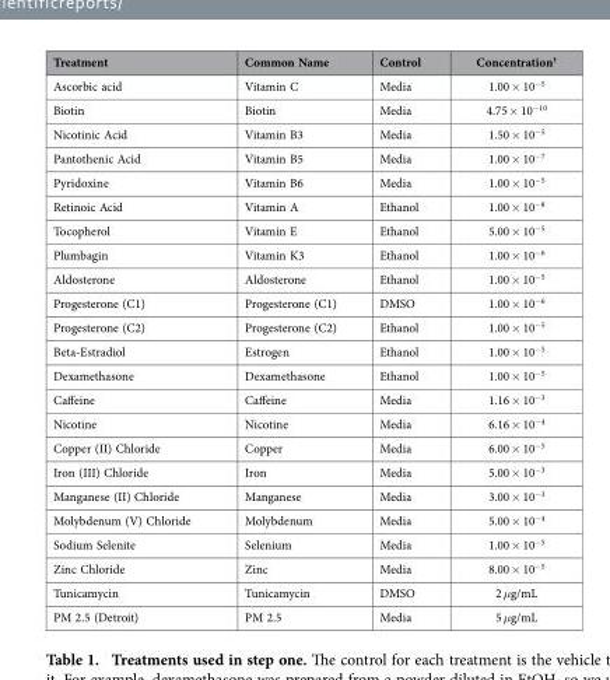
<table><thead><tr><td>Treatment</td><td>Common Name</td><td>Control</td><td>Concentration†</td></tr></thead><tbody><tr><td>Ascorbic acid</td><td>Vitamin C</td><td>Media</td><td>1.00 × 10<sup>−5</sup></td></tr><tr><td>Biotin</td><td>Biotin</td><td>Media</td><td>4.75 × 10<sup>−10</sup></td></tr><tr><td>Nicotinic Acid</td><td>Vitamin B3</td><td>Media</td><td>1.50 × 10<sup>−5</sup></td></tr><tr><td>Pantothenic Acid</td><td>Vitamin B5</td><td>Media</td><td>1.00 × 10<sup>−7</sup></td></tr><tr><td>Pyridoxine</td><td>Vitamin B6</td><td>Media</td><td>1.00 × 10<sup>−5</sup></td></tr><tr><td>Retinoic Acid</td><td>Vitamin A</td><td>Ethanol</td><td>1.00 × 10<sup>−8</sup></td></tr><tr><td>Tocopherol</td><td>Vitamin E</td><td>Ethanol</td><td>5.00 × 10<sup>−5</sup></td></tr><tr><td>Plumbagin</td><td>Vitamin K3</td><td>Ethanol</td><td>1.00 × 10<sup>−6</sup></td></tr><tr><td>Aldosterone</td><td>Aldosterone</td><td>Ethanol</td><td>1.00 × 10<sup>−5</sup></td></tr><tr><td>Progesterone (C1)</td><td>Progesterone (C1)</td><td>DMSO</td><td>1.00 × 10<sup>−6</sup></td></tr><tr><td>Progesterone (C2)</td><td>Progesterone (C2)</td><td>Ethanol</td><td>1.00 × 10<sup>−5</sup></td></tr><tr><td>Beta-Estradiol</td><td>Estrogen</td><td>Ethanol</td><td>1.00 × 10<sup>−5</sup></td></tr><tr><td>Dexamethasone</td><td>Dexamethasone</td><td>Ethanol</td><td>1.00 × 10<sup>−5</sup></td></tr><tr><td>Caffeine</td><td>Caffeine</td><td>Media</td><td>1.16 × 10<sup>−3</sup></td></tr><tr><td>Nicotine</td><td>Nicotine</td><td>Media</td><td>6.16 × 10<sup>−4</sup></td></tr><tr><td>Copper (II) Chloride</td><td>Copper</td><td>Media</td><td>6.00 × 10<sup>−5</sup></td></tr><tr><td>Iron (III) Chloride</td><td>Iron</td><td>Media</td><td>5.00 × 10<sup>−3</sup></td></tr><tr><td>Manganese (II) Chloride</td><td>Manganese</td><td>Media</td><td>3.00 × 10<sup>−3</sup></td></tr><tr><td>Molybdenum (V) Chloride</td><td>Molybdenum</td><td>Media</td><td>5.00 × 10<sup>−4</sup></td></tr><tr><td>Sodium Selenite</td><td>Selenium</td><td>Media</td><td>1.00 × 10<sup>−5</sup></td></tr><tr><td>Zinc Chloride</td><td>Zinc</td><td>Media</td><td>8.00 × 10<sup>−5</sup></td></tr><tr><td>Tunicamycin</td><td>Tunicamycin</td><td>DMSO</td><td>2 μg/mL</td></tr><tr><td>PM 2.5 (Detroit)</td><td>PM 2.5</td><td>Media</td><td>5 μg/mL</td></tr></tbody></table>